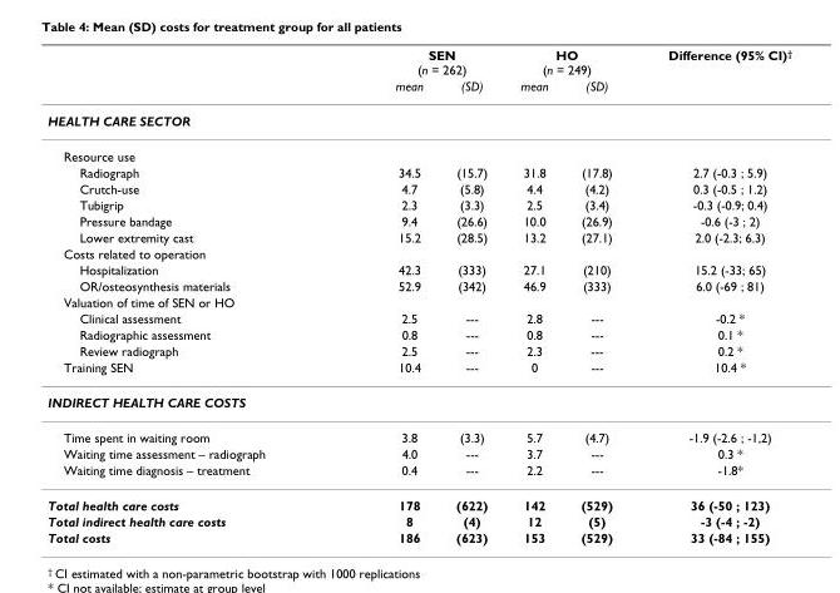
<table><thead><tr><td rowspan="2"></td><td colspan="2">SEN (n = 262)</td><td colspan="2">HO (n = 249)</td><td rowspan="2">Difference (95% CI)<sup>†</sup></td></tr><tr><td>mean</td><td>(SD)</td><td>mean</td><td>(SD)</td></tr></thead><tbody><tr><td colspan="6">HEALTH CARE SECTOR</td></tr><tr><td colspan="6">Resource use</td></tr><tr><td>Radiograph</td><td>34.5</td><td>(15.7)</td><td>31.8</td><td>(17.8)</td><td>2.7 (-0.3 ; 5.9)</td></tr><tr><td>Crutch-use</td><td>4.7</td><td>(5.8)</td><td>4.4</td><td>(4.2)</td><td>0.3 (-0.5 ; 1.2)</td></tr><tr><td>Tubigrip</td><td>2.3</td><td>(3.3)</td><td>2.5</td><td>(3.4)</td><td>-0.3 (-0.9; 0.4)</td></tr><tr><td>Pressure bandage</td><td>9.4</td><td>(26.6)</td><td>10.0</td><td>(26.9)</td><td>-0.6 (-3 ; 2)</td></tr><tr><td>Lower extremity cast</td><td>15.2</td><td>(28.5)</td><td>13.2</td><td>(27.1)</td><td>2.0 (-2.3; 6.3)</td></tr><tr><td colspan="6">Costs related to operation</td></tr><tr><td>Hospitalization</td><td>42.3</td><td>(333)</td><td>27.1</td><td>(210)</td><td>15.2 (-33; 65)</td></tr><tr><td>OR/osteosynthesis materials</td><td>52.9</td><td>(342)</td><td>46.9</td><td>(333)</td><td>6.0 (-69 ; 81)</td></tr><tr><td colspan="6">Valuation of time of SEN or HO</td></tr><tr><td>Clinical assessment</td><td>2.5</td><td>---</td><td>2.8</td><td>---</td><td>-0.2 *</td></tr><tr><td>Radiographic assessment</td><td>0.8</td><td>---</td><td>0.8</td><td>---</td><td>0.1 *</td></tr><tr><td>Review radiograph</td><td>2.5</td><td>---</td><td>2.3</td><td>---</td><td>0.2 *</td></tr><tr><td>Training SEN</td><td>10.4</td><td>---</td><td>0</td><td>---</td><td>10.4 *</td></tr><tr><td colspan="6">INDIRECT HEALTH CARE COSTS</td></tr><tr><td>Time spent in waiting room</td><td>3.8</td><td>(3.3)</td><td>5.7</td><td>(4.7)</td><td>-1.9 (-2.6 ; -1,2)</td></tr><tr><td>Waiting time assessment – radiograph</td><td>4.0</td><td>---</td><td>3.7</td><td>---</td><td>0.3 *</td></tr><tr><td>Waiting time diagnosis – treatment</td><td>0.4</td><td>---</td><td>2.2</td><td>---</td><td>-1.8*</td></tr><tr><td>Total health care costs</td><td>178</td><td>(622)</td><td>142</td><td>(529)</td><td>36 (-50 ; 123)</td></tr><tr><td>Total indirect health care costs</td><td>8</td><td>(4)</td><td>12</td><td>(5)</td><td>-3 (-4 ; -2)</td></tr><tr><td>Total costs</td><td>186</td><td>(623)</td><td>153</td><td>(529)</td><td>33 (-84 ; 155)</td></tr></tbody></table>